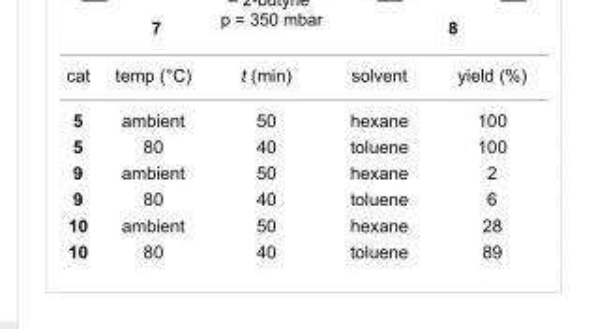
<table><tbody><tr><td>cat</td><td>temp (°C)</td><td>t (min)</td><td>solvent</td><td>yield (%)</td></tr><tr><td>5</td><td>ambient</td><td>50</td><td>hexane</td><td>100</td></tr><tr><td>5</td><td>80</td><td>40</td><td>toluene</td><td>100</td></tr><tr><td>9</td><td>ambient</td><td>50</td><td>hexane</td><td>2</td></tr><tr><td>9</td><td>80</td><td>40</td><td>toluene</td><td>6</td></tr><tr><td>10</td><td>ambient</td><td>50</td><td>hexane</td><td>28</td></tr><tr><td>10</td><td>80</td><td>40</td><td>toluene</td><td>89</td></tr></tbody></table>